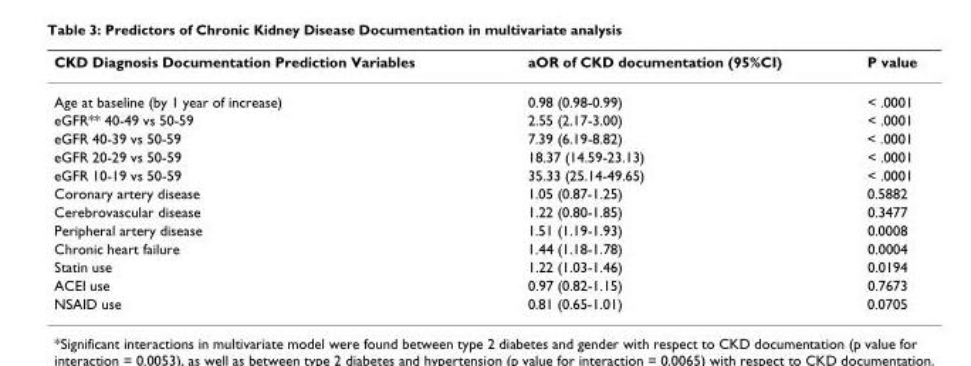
<table><thead><tr><td>CKD Diagnosis Documentation Prediction Variables</td><td>aOR of CKD documentation (95%CI)</td><td>P value</td></tr></thead><tbody><tr><td>Age at baseline (by 1 year of increase)</td><td>0.98 (0.98-0.99)</td><td>&lt; .0001</td></tr><tr><td>eGFR** 40-49 vs 50-59</td><td>2.55 (2.17-3.00)</td><td>&lt; .0001</td></tr><tr><td>eGFR 40-39 vs 50-59</td><td>7.39 (6.19-8.82)</td><td>&lt; .0001</td></tr><tr><td>eGFR 20-29 vs 50-59</td><td>18.37 (14.59-23.13)</td><td>&lt; .0001</td></tr><tr><td>eGFR 10-19 vs 50-59</td><td>35.33 (25.14-49.65)</td><td>&lt; .0001</td></tr><tr><td>Coronary artery disease</td><td>1.05 (0.87-1.25)</td><td>0.5882</td></tr><tr><td>Cerebrovascular disease</td><td>1.22 (0.80-1.85)</td><td>0.3477</td></tr><tr><td>Peripheral artery disease</td><td>1.51 (1.19-1.93)</td><td>0.0008</td></tr><tr><td>Chronic heart failure</td><td>1.44 (1.18-1.78)</td><td>0.0004</td></tr><tr><td>Statin use</td><td>1.22 (1.03-1.46)</td><td>0.0194</td></tr><tr><td>ACEI use</td><td>0.97 (0.82-1.15)</td><td>0.7673</td></tr><tr><td>NSAID use</td><td>0.81 (0.65-1.01)</td><td>0.0705</td></tr></tbody></table>